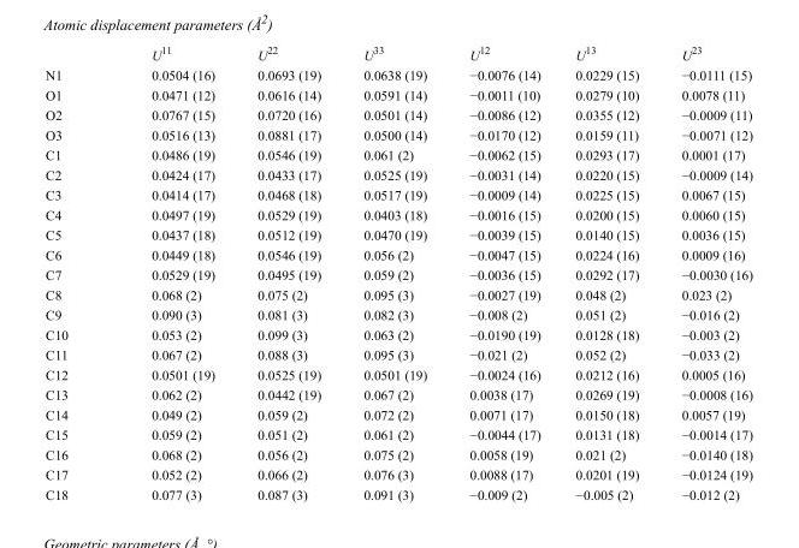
<table><thead><tr><td></td><td>U<sup>11</sup></td><td>U<sup>22</sup></td><td>U<sup>33</sup></td><td>U<sup>12</sup></td><td>U<sup>13</sup></td><td>U<sup>23</sup></td></tr></thead><tbody><tr><td>N1</td><td>0.0504 (16)</td><td>0.0693 (19)</td><td>0.0638 (19)</td><td>−0.0076 (14)</td><td>0.0229 (15)</td><td>−0.0111 (15)</td></tr><tr><td>O1</td><td>0.0471 (12)</td><td>0.0616 (14)</td><td>0.0591 (14)</td><td>−0.0011 (10)</td><td>0.0279 (10)</td><td>0.0078 (11)</td></tr><tr><td>O2</td><td>0.0767 (15)</td><td>0.0720 (16)</td><td>0.0501 (14)</td><td>−0.0086 (12)</td><td>0.0355 (12)</td><td>−0.0009 (11)</td></tr><tr><td>O3</td><td>0.0516 (13)</td><td>0.0881 (17)</td><td>0.0500 (14)</td><td>−0.0170 (12)</td><td>0.0159 (11)</td><td>−0.0071 (12)</td></tr><tr><td>C1</td><td>0.0486 (19)</td><td>0.0546 (19)</td><td>0.061 (2)</td><td>−0.0062 (15)</td><td>0.0293 (17)</td><td>0.0001 (17)</td></tr><tr><td>C2</td><td>0.0424 (17)</td><td>0.0433 (17)</td><td>0.0525 (19)</td><td>−0.0031 (14)</td><td>0.0220 (15)</td><td>−0.0009 (14)</td></tr><tr><td>C3</td><td>0.0414 (17)</td><td>0.0468 (18)</td><td>0.0517 (19)</td><td>−0.0009 (14)</td><td>0.0225 (15)</td><td>0.0067 (15)</td></tr><tr><td>C4</td><td>0.0497 (19)</td><td>0.0529 (19)</td><td>0.0403 (18)</td><td>−0.0016 (15)</td><td>0.0200 (15)</td><td>0.0060 (15)</td></tr><tr><td>C5</td><td>0.0437 (18)</td><td>0.0512 (19)</td><td>0.0470 (19)</td><td>−0.0039 (15)</td><td>0.0140 (15)</td><td>0.0036 (15)</td></tr><tr><td>C6</td><td>0.0449 (18)</td><td>0.0546 (19)</td><td>0.056 (2)</td><td>−0.0047 (15)</td><td>0.0224 (16)</td><td>0.0009 (16)</td></tr><tr><td>C7</td><td>0.0529 (19)</td><td>0.0495 (19)</td><td>0.059 (2)</td><td>−0.0036 (15)</td><td>0.0292 (17)</td><td>−0.0030 (16)</td></tr><tr><td>C8</td><td>0.068 (2)</td><td>0.075 (2)</td><td>0.095 (3)</td><td>−0.0027 (19)</td><td>0.048 (2)</td><td>0.023 (2)</td></tr><tr><td>C9</td><td>0.090 (3)</td><td>0.081 (3)</td><td>0.082 (3)</td><td>−0.008 (2)</td><td>0.051 (2)</td><td>−0.016 (2)</td></tr><tr><td>C10</td><td>0.053 (2)</td><td>0.099 (3)</td><td>0.063 (2)</td><td>−0.0190 (19)</td><td>0.0128 (18)</td><td>−0.003 (2)</td></tr><tr><td>C11</td><td>0.067 (2)</td><td>0.088 (3)</td><td>0.095 (3)</td><td>−0.021 (2)</td><td>0.052 (2)</td><td>−0.033 (2)</td></tr><tr><td>C12</td><td>0.0501 (19)</td><td>0.0525 (19)</td><td>0.0501 (19)</td><td>−0.0024 (16)</td><td>0.0212 (16)</td><td>0.0005 (16)</td></tr><tr><td>C13</td><td>0.062 (2)</td><td>0.0442 (19)</td><td>0.067 (2)</td><td>0.0038 (17)</td><td>0.0269 (19)</td><td>−0.0008 (16)</td></tr><tr><td>C14</td><td>0.049 (2)</td><td>0.059 (2)</td><td>0.072 (2)</td><td>0.0071 (17)</td><td>0.0150 (18)</td><td>0.0057 (19)</td></tr><tr><td>C15</td><td>0.059 (2)</td><td>0.051 (2)</td><td>0.061 (2)</td><td>−0.0044 (17)</td><td>0.0131 (18)</td><td>−0.0014 (17)</td></tr><tr><td>C16</td><td>0.068 (2)</td><td>0.056 (2)</td><td>0.075 (2)</td><td>0.0058 (19)</td><td>0.021 (2)</td><td>−0.0140 (18)</td></tr><tr><td>C17</td><td>0.052 (2)</td><td>0.066 (2)</td><td>0.076 (3)</td><td>0.0088 (17)</td><td>0.0201 (19)</td><td>−0.0124 (19)</td></tr><tr><td>C18</td><td>0.077 (3)</td><td>0.087 (3)</td><td>0.091 (3)</td><td>−0.009 (2)</td><td>−0.005 (2)</td><td>−0.012 (2)</td></tr></tbody></table>